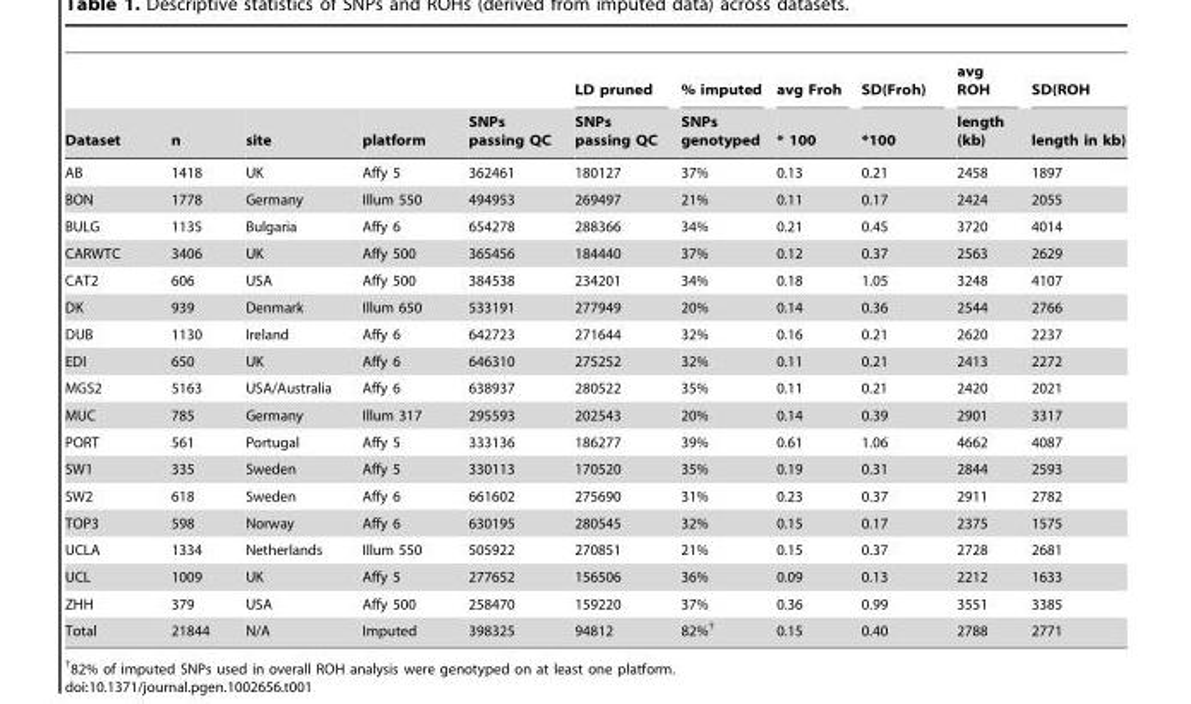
<table><thead><tr><td rowspan="2">Dataset</td><td rowspan="2">n</td><td rowspan="2">site</td><td rowspan="2">platform</td><td rowspan="2">SNPs passing QC</td><td rowspan="2">LD pruned SNPs passing QC</td><td rowspan="2">% imputed SNPs genotyped</td><td rowspan="2">avg Froh * 100</td><td rowspan="2">SD(Froh) *100</td><td rowspan="2">avg ROH length (kb)</td><td rowspan="2">SD(ROH length in kb)</td></tr><tr></tr></thead><tbody><tr><td>AB</td><td>1418</td><td>UK</td><td>Affy 5</td><td>362461</td><td>180127</td><td>37%</td><td>0.13</td><td>0.21</td><td>2458</td><td>1897</td></tr><tr><td>BON</td><td>1778</td><td>Germany</td><td>Illum 550</td><td>494953</td><td>269497</td><td>21%</td><td>0.11</td><td>0.17</td><td>2424</td><td>2055</td></tr><tr><td>BULG</td><td>1135</td><td>Bulgaria</td><td>Affy 6</td><td>654278</td><td>288366</td><td>34%</td><td>0.21</td><td>0.45</td><td>3720</td><td>4014</td></tr><tr><td>CARWTC</td><td>3406</td><td>UK</td><td>Affy 500</td><td>365456</td><td>184440</td><td>37%</td><td>0.12</td><td>0.37</td><td>2563</td><td>2629</td></tr><tr><td>CAT2</td><td>606</td><td>USA</td><td>Affy 500</td><td>384538</td><td>234201</td><td>34%</td><td>0.18</td><td>1.05</td><td>3248</td><td>4107</td></tr><tr><td>DK</td><td>939</td><td>Denmark</td><td>Illum 650</td><td>533191</td><td>277949</td><td>20%</td><td>0.14</td><td>0.36</td><td>2544</td><td>2766</td></tr><tr><td>DUB</td><td>1130</td><td>Ireland</td><td>Affy 6</td><td>642723</td><td>271644</td><td>32%</td><td>0.16</td><td>0.21</td><td>2620</td><td>2237</td></tr><tr><td>EDI</td><td>650</td><td>UK</td><td>Affy 6</td><td>646310</td><td>275252</td><td>32%</td><td>0.11</td><td>0.21</td><td>2413</td><td>2272</td></tr><tr><td>MGS2</td><td>5163</td><td>USA/Australia</td><td>Affy 6</td><td>638937</td><td>280522</td><td>35%</td><td>0.11</td><td>0.21</td><td>2420</td><td>2021</td></tr><tr><td>MUC</td><td>785</td><td>Germany</td><td>Illum 317</td><td>295593</td><td>202543</td><td>20%</td><td>0.14</td><td>0.39</td><td>2901</td><td>3317</td></tr><tr><td>PORT</td><td>561</td><td>Portugal</td><td>Affy 5</td><td>333136</td><td>186277</td><td>39%</td><td>0.61</td><td>1.06</td><td>4662</td><td>4087</td></tr><tr><td>SW1</td><td>335</td><td>Sweden</td><td>Affy 5</td><td>330113</td><td>170520</td><td>35%</td><td>0.19</td><td>0.31</td><td>2844</td><td>2593</td></tr><tr><td>SW2</td><td>618</td><td>Sweden</td><td>Affy 6</td><td>661602</td><td>275690</td><td>31%</td><td>0.23</td><td>0.37</td><td>2911</td><td>2782</td></tr><tr><td>TOP3</td><td>598</td><td>Norway</td><td>Affy 6</td><td>630195</td><td>280545</td><td>32%</td><td>0.15</td><td>0.17</td><td>2375</td><td>1575</td></tr><tr><td>UCLA</td><td>1334</td><td>Netherlands</td><td>Illum 550</td><td>505922</td><td>270851</td><td>21%</td><td>0.15</td><td>0.37</td><td>2728</td><td>2681</td></tr><tr><td>UCL</td><td>1009</td><td>UK</td><td>Affy 5</td><td>277652</td><td>156506</td><td>36%</td><td>0.09</td><td>0.13</td><td>2212</td><td>1633</td></tr><tr><td>ZHH</td><td>379</td><td>USA</td><td>Affy 500</td><td>258470</td><td>159220</td><td>37%</td><td>0.36</td><td>0.99</td><td>3551</td><td>3385</td></tr><tr><td>Total</td><td>21844</td><td>N/A</td><td>Imputed</td><td>398325</td><td>94812</td><td>82%†</td><td>0.15</td><td>0.40</td><td>2788</td><td>2771</td></tr></tbody></table>